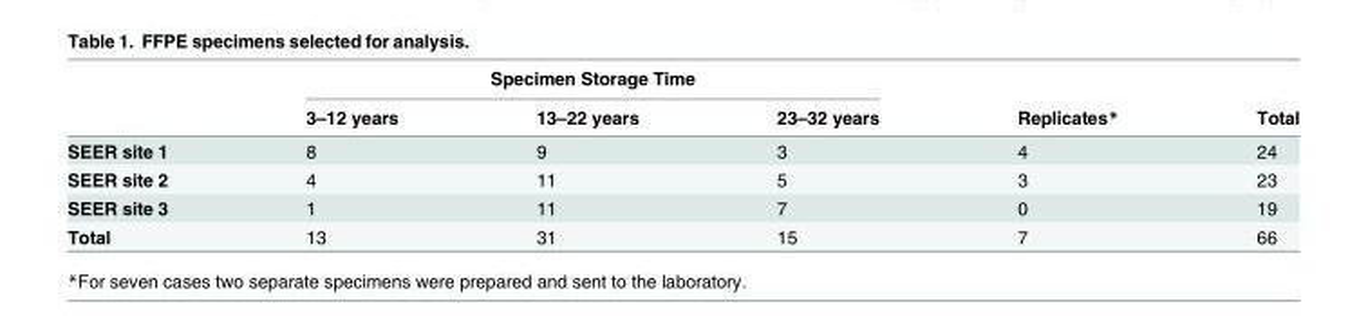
<table><thead><tr><td rowspan="2"></td><td colspan="3">Specimen Storage Time</td><td rowspan="2">Replicates*</td><td rowspan="2">Total</td></tr><tr><td>3–12 years</td><td>13–22 years</td><td>23–32 years</td></tr></thead><tbody><tr><td>SEER site 1</td><td>8</td><td>9</td><td>3</td><td>4</td><td>24</td></tr><tr><td>SEER site 2</td><td>4</td><td>11</td><td>5</td><td>3</td><td>23</td></tr><tr><td>SEER site 3</td><td>1</td><td>11</td><td>7</td><td>0</td><td>19</td></tr><tr><td>Total</td><td>13</td><td>31</td><td>15</td><td>7</td><td>66</td></tr></tbody></table>